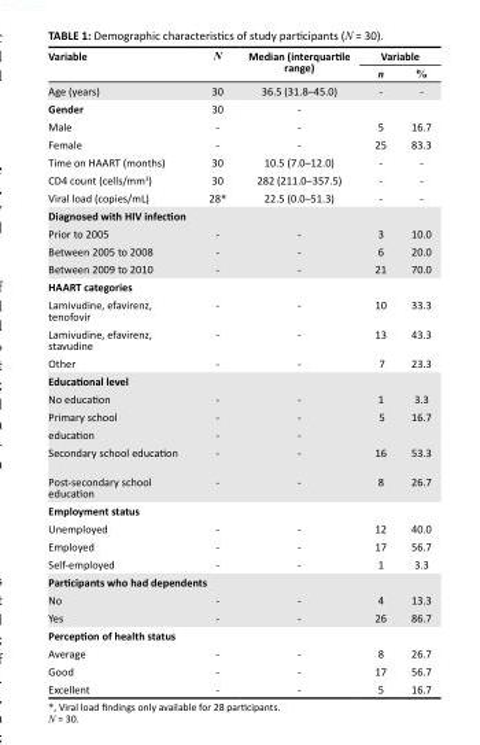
<table><thead><tr><td rowspan="2">Variable</td><td rowspan="2">N</td><td rowspan="2">Median (interquartile range)</td><td colspan="2">Variable</td></tr><tr><td>n</td><td>%</td></tr></thead><tbody><tr><td>Age (years)</td><td>30</td><td>36.5 (31.8–45.0)</td><td>-</td><td>-</td></tr><tr><td>Gender</td><td>30</td><td>-</td><td></td><td></td></tr><tr><td>Male</td><td>-</td><td>-</td><td>5</td><td>16.7</td></tr><tr><td>Female</td><td>-</td><td>-</td><td>25</td><td>83.3</td></tr><tr><td>Time on HAART (months)</td><td>30</td><td>10.5 (7.0–12.0)</td><td>-</td><td>-</td></tr><tr><td>CD4 count (cells/mm<sup>3</sup>)</td><td>30</td><td>282 (211.0–357.5)</td><td>-</td><td>-</td></tr><tr><td>Viral load (copies/mL)</td><td>28*</td><td>22.5 (0.0–51.3)</td><td>-</td><td>-</td></tr><tr><td colspan="5">Diagnosed with HIV infection</td></tr><tr><td>Prior to 2005</td><td>-</td><td>-</td><td>3</td><td>10.0</td></tr><tr><td>Between 2005 to 2008</td><td>-</td><td>-</td><td>6</td><td>20.0</td></tr><tr><td>Between 2009 to 2010</td><td>-</td><td>-</td><td>21</td><td>70.0</td></tr><tr><td colspan="5">HAART categories</td></tr><tr><td>Lamivudine, efavirenz, tenofovir</td><td>-</td><td>-</td><td>10</td><td>33.3</td></tr><tr><td>Lamivudine, efavirenz, stavudine</td><td>-</td><td>-</td><td>13</td><td>43.3</td></tr><tr><td>Other</td><td>-</td><td>-</td><td>7</td><td>23.3</td></tr><tr><td colspan="5">Educational level</td></tr><tr><td>No education</td><td>-</td><td>-</td><td>1</td><td>3.3</td></tr><tr><td>Primary school</td><td>-</td><td>-</td><td>5</td><td>16.7</td></tr><tr><td>education</td><td>-</td><td>-</td><td></td><td></td></tr><tr><td>Secondary school education</td><td>-</td><td>-</td><td>16</td><td>53.3</td></tr><tr><td>Post-secondary school education</td><td>-</td><td>-</td><td>8</td><td>26.7</td></tr><tr><td colspan="5">Employment status</td></tr><tr><td>Unemployed</td><td>-</td><td>-</td><td>12</td><td>40.0</td></tr><tr><td>Employed</td><td>-</td><td>-</td><td>17</td><td>56.7</td></tr><tr><td>Self-employed</td><td>-</td><td>-</td><td>1</td><td>3.3</td></tr><tr><td colspan="5">Participants who had dependents</td></tr><tr><td>No</td><td>-</td><td>-</td><td>4</td><td>13.3</td></tr><tr><td>Yes</td><td>-</td><td>-</td><td>26</td><td>86.7</td></tr><tr><td colspan="5">Perception of health status</td></tr><tr><td>Average</td><td>-</td><td>-</td><td>8</td><td>26.7</td></tr><tr><td>Good</td><td>-</td><td>-</td><td>17</td><td>56.7</td></tr><tr><td>Excellent</td><td>-</td><td>-</td><td>5</td><td>16.7</td></tr></tbody></table>